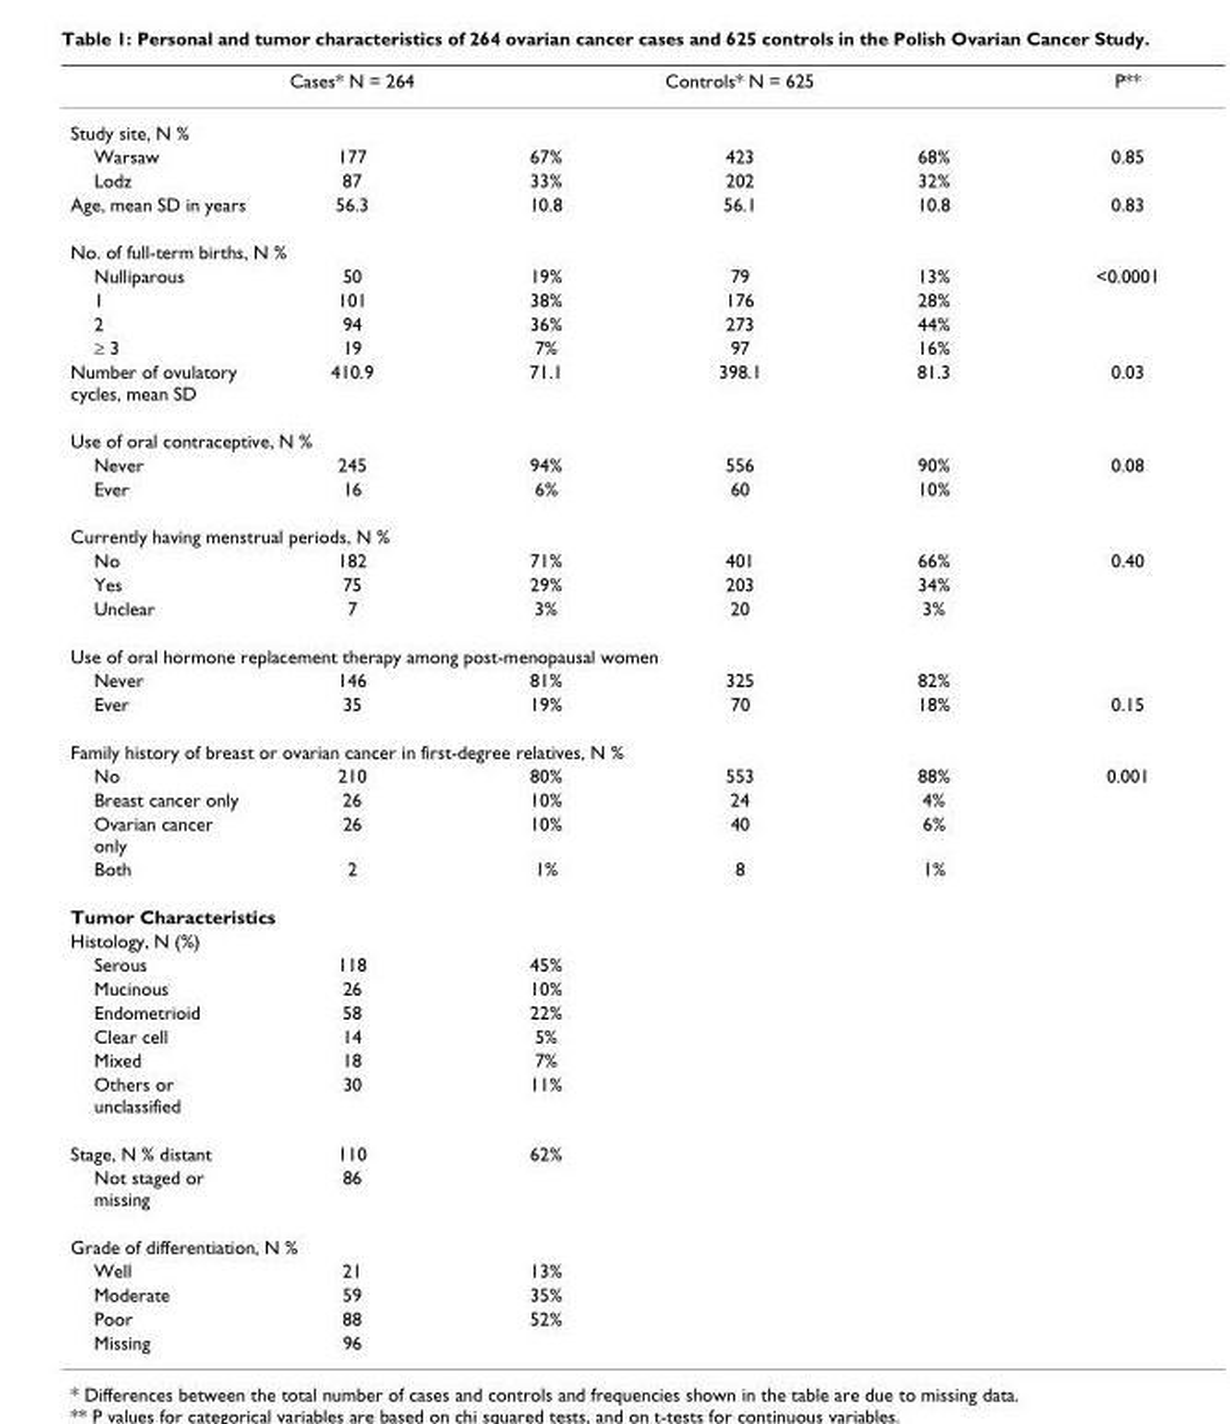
<table><thead><tr><td></td><td>Cases* N = 264</td><td></td><td>Controls* N = 625</td><td></td><td>P**</td></tr></thead><tbody><tr><td colspan="6">Study site, N %</td></tr><tr><td>Warsaw</td><td>177</td><td>67%</td><td>423</td><td>68%</td><td>0.85</td></tr><tr><td>Lodz</td><td>87</td><td>33%</td><td>202</td><td>32%</td><td></td></tr><tr><td>Age, mean SD in years</td><td>56.3</td><td>10.8</td><td>56.1</td><td>10.8</td><td>0.83</td></tr><tr><td colspan="6">No. of full-term births, N %</td></tr><tr><td>Nulliparous</td><td>50</td><td>19%</td><td>79</td><td>13%</td><td>&lt;0.0001</td></tr><tr><td>1</td><td>101</td><td>38%</td><td>176</td><td>28%</td><td></td></tr><tr><td>2</td><td>94</td><td>36%</td><td>273</td><td>44%</td><td></td></tr><tr><td>≥ 3</td><td>19</td><td>7%</td><td>97</td><td>16%</td><td></td></tr><tr><td>Number of ovulatory cycles, mean SD</td><td>410.9</td><td>71.1</td><td>398.1</td><td>81.3</td><td>0.03</td></tr><tr><td colspan="6">Use of oral contraceptive, N %</td></tr><tr><td>Never</td><td>245</td><td>94%</td><td>556</td><td>90%</td><td>0.08</td></tr><tr><td>Ever</td><td>16</td><td>6%</td><td>60</td><td>10%</td><td></td></tr><tr><td colspan="6">Currently having menstrual periods, N %</td></tr><tr><td>No</td><td>182</td><td>71%</td><td>401</td><td>66%</td><td>0.40</td></tr><tr><td>Yes</td><td>75</td><td>29%</td><td>203</td><td>34%</td><td></td></tr><tr><td>Unclear</td><td>7</td><td>3%</td><td>20</td><td>3%</td><td></td></tr><tr><td colspan="6">Use of oral hormone replacement therapy among post-menopausal women</td></tr><tr><td>Never</td><td>146</td><td>81%</td><td>325</td><td>82%</td><td></td></tr><tr><td>Ever</td><td>35</td><td>19%</td><td>70</td><td>18%</td><td>0.15</td></tr><tr><td colspan="6">Family history of breast or ovarian cancer in first-degree relatives, N %</td></tr><tr><td>No</td><td>210</td><td>80%</td><td>553</td><td>88%</td><td>0.001</td></tr><tr><td>Breast cancer only</td><td>26</td><td>10%</td><td>24</td><td>4%</td><td></td></tr><tr><td>Ovarian cancer only</td><td>26</td><td>10%</td><td>40</td><td>6%</td><td></td></tr><tr><td>Both</td><td>2</td><td>1%</td><td>8</td><td>1%</td><td></td></tr><tr><td colspan="6">Tumor Characteristics</td></tr><tr><td colspan="6">Histology, N (%)</td></tr><tr><td>Serous</td><td>118</td><td>45%</td><td></td><td></td><td></td></tr><tr><td>Mucinous</td><td>26</td><td>10%</td><td></td><td></td><td></td></tr><tr><td>Endometrioid</td><td>58</td><td>22%</td><td></td><td></td><td></td></tr><tr><td>Clear cell</td><td>14</td><td>5%</td><td></td><td></td><td></td></tr><tr><td>Mixed</td><td>18</td><td>7%</td><td></td><td></td><td></td></tr><tr><td>Others or unclassified</td><td>30</td><td>11%</td><td></td><td></td><td></td></tr><tr><td>Stage, N % distant</td><td>110</td><td>62%</td><td></td><td></td><td></td></tr><tr><td>Not staged or missing</td><td>86</td><td></td><td></td><td></td><td></td></tr><tr><td colspan="6">Grade of differentiation, N %</td></tr><tr><td>Well</td><td>21</td><td>13%</td><td></td><td></td><td></td></tr><tr><td>Moderate</td><td>59</td><td>35%</td><td></td><td></td><td></td></tr><tr><td>Poor</td><td>88</td><td>52%</td><td></td><td></td><td></td></tr><tr><td>Missing</td><td>96</td><td></td><td></td><td></td><td></td></tr></tbody></table>